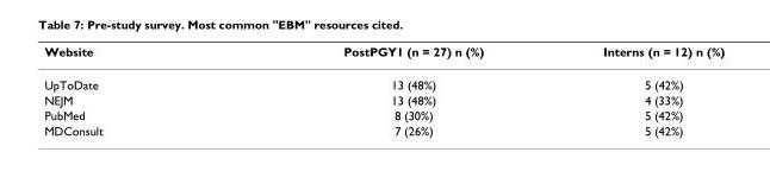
<table><thead><tr><td>Website</td><td>PostPGY1 (n = 27) n (%)</td><td>Interns (n = 12) n (%)</td></tr></thead><tbody><tr><td>UpToDate</td><td>13 (48%)</td><td>5 (42%)</td></tr><tr><td>NEJM</td><td>13 (48%)</td><td>4 (33%)</td></tr><tr><td>PubMed</td><td>8 (30%)</td><td>5 (42%)</td></tr><tr><td>MDConsult</td><td>7 (26%)</td><td>5 (42%)</td></tr></tbody></table>